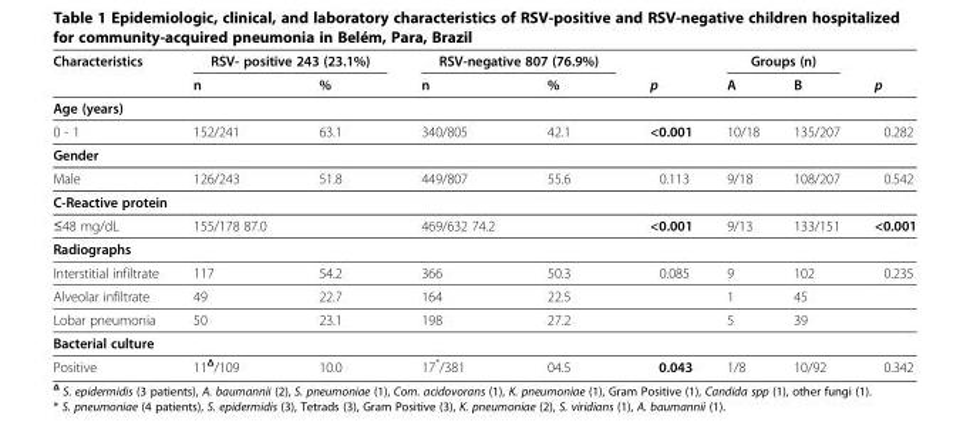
<table><thead><tr><td rowspan="2">Characteristics</td><td colspan="2">RSV- positive 243 (23.1%)</td><td colspan="2">RSV-negative 807 (76.9%)</td><td rowspan="2">p</td><td colspan="2">Groups (n)</td><td rowspan="2">p</td></tr><tr><td>n</td><td>%</td><td>n</td><td>%</td><td>A</td><td>B</td></tr></thead><tbody><tr><td colspan="9">Age (years)</td></tr><tr><td>0 - 1</td><td>152/241</td><td>63.1</td><td>340/805</td><td>42.1</td><td>&lt;0.001</td><td>10/18</td><td>135/207</td><td>0.282</td></tr><tr><td colspan="9">Gender</td></tr><tr><td>Male</td><td>126/243</td><td>51.8</td><td>449/807</td><td>55.6</td><td>0.113</td><td>9/18</td><td>108/207</td><td>0.542</td></tr><tr><td colspan="9">C-Reactive protein</td></tr><tr><td>≤48 mg/dL</td><td colspan="2">155/178 87.0</td><td colspan="2">469/632 74.2</td><td>&lt;0.001</td><td>9/13</td><td>133/151</td><td>&lt;0.001</td></tr><tr><td colspan="9">Radiographs</td></tr><tr><td>Interstitial infiltrate</td><td>117</td><td>54.2</td><td>366</td><td>50.3</td><td>0.085</td><td>9</td><td>102</td><td>0.235</td></tr><tr><td>Alveolar infiltrate</td><td>49</td><td>22.7</td><td>164</td><td>22.5</td><td></td><td>1</td><td>45</td><td></td></tr><tr><td>Lobar pneumonia</td><td>50</td><td>23.1</td><td>198</td><td>27.2</td><td></td><td>5</td><td>39</td><td></td></tr><tr><td colspan="9">Bacterial culture</td></tr><tr><td>Positive</td><td>11<sup>Δ</sup>/109</td><td>10.0</td><td>17*/381</td><td>04.5</td><td>0.043</td><td>1/8</td><td>10/92</td><td>0.342</td></tr></tbody></table>